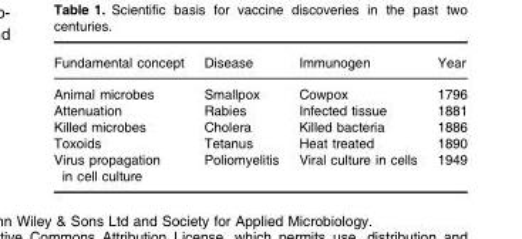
<table><thead><tr><td>Fundamental concept</td><td>Disease</td><td>Immunogen</td><td>Year</td></tr></thead><tbody><tr><td>Animal microbes</td><td>Smallpox</td><td>Cowpox</td><td>1796</td></tr><tr><td>Attenuation</td><td>Rabies</td><td>Infected tissue</td><td>1881</td></tr><tr><td>Killed microbes</td><td>Cholera</td><td>Killed bacteria</td><td>1886</td></tr><tr><td>Toxoids</td><td>Tetanus</td><td>Heat treated</td><td>1890</td></tr><tr><td>Virus propagation in cell culture</td><td>Poliomyelitis</td><td>Viral culture in cells</td><td>1949</td></tr></tbody></table>